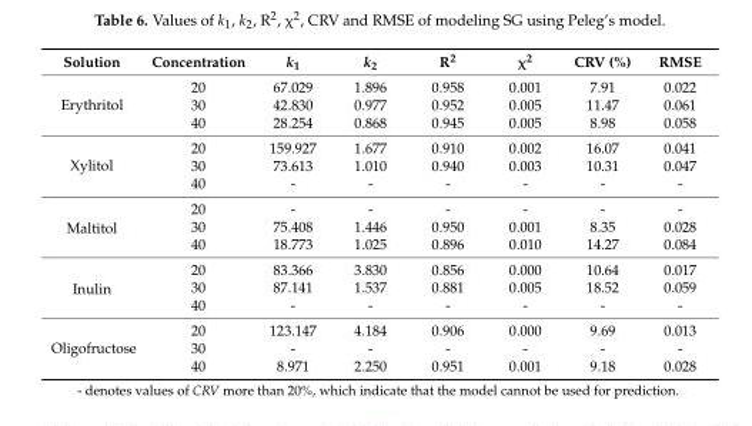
<table><thead><tr><td>Solution</td><td>Concentration</td><td>k<sub>1</sub></td><td>k<sub>2</sub></td><td>R<sup>2</sup></td><td>χ<sup>2</sup></td><td>CRV (%)</td><td>RMSE</td></tr></thead><tbody><tr><td rowspan="3">Erythritol</td><td>20</td><td>67.029</td><td>1.896</td><td>0.958</td><td>0.001</td><td>7.91</td><td>0.022</td></tr><tr><td>30</td><td>42.830</td><td>0.977</td><td>0.952</td><td>0.005</td><td>11.47</td><td>0.061</td></tr><tr><td>40</td><td>28.254</td><td>0.868</td><td>0.945</td><td>0.005</td><td>8.98</td><td>0.058</td></tr><tr><td rowspan="3">Xylitol</td><td>20</td><td>159.927</td><td>1.677</td><td>0.910</td><td>0.002</td><td>16.07</td><td>0.041</td></tr><tr><td>30</td><td>73.613</td><td>1.010</td><td>0.940</td><td>0.003</td><td>10.31</td><td>0.047</td></tr><tr><td>40</td><td>-</td><td>-</td><td>-</td><td>-</td><td>-</td><td>-</td></tr><tr><td rowspan="3">Maltitol</td><td>20</td><td>-</td><td>-</td><td>-</td><td>-</td><td>-</td><td>-</td></tr><tr><td>30</td><td>75.408</td><td>1.446</td><td>0.950</td><td>0.001</td><td>8.35</td><td>0.028</td></tr><tr><td>40</td><td>18.773</td><td>1.025</td><td>0.896</td><td>0.010</td><td>14.27</td><td>0.084</td></tr><tr><td rowspan="3">Inulin</td><td>20</td><td>83.366</td><td>3.830</td><td>0.856</td><td>0.000</td><td>10.64</td><td>0.017</td></tr><tr><td>30</td><td>87.141</td><td>1.537</td><td>0.881</td><td>0.005</td><td>18.52</td><td>0.059</td></tr><tr><td>40</td><td>-</td><td>-</td><td>-</td><td>-</td><td>-</td><td>-</td></tr><tr><td rowspan="3">Oligofructose</td><td>20</td><td>123.147</td><td>4.184</td><td>0.906</td><td>0.000</td><td>9.69</td><td>0.013</td></tr><tr><td>30</td><td>-</td><td>-</td><td>-</td><td>-</td><td>-</td><td>-</td></tr><tr><td>40</td><td>8.971</td><td>2.250</td><td>0.951</td><td>0.001</td><td>9.18</td><td>0.028</td></tr></tbody></table>